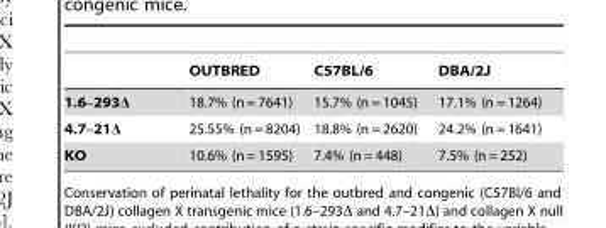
<table><thead><tr><td></td><td>OUTBRED</td><td>C57BL/6</td><td>DBA/2J</td></tr></thead><tbody><tr><td>1.6–293Δ</td><td>18.7% (n = 7641)</td><td>15.7% (n = 1045)</td><td>17.1% (n = 1264)</td></tr><tr><td>4.7–21Δ</td><td>25.55% (n = 8204)</td><td>18.8% (n = 2620)</td><td>24.2% (n = 1641)</td></tr><tr><td>KO</td><td>10.6% (n = 1595)</td><td>7.4% (n = 448)</td><td>7.5% (n = 252)</td></tr></tbody></table>